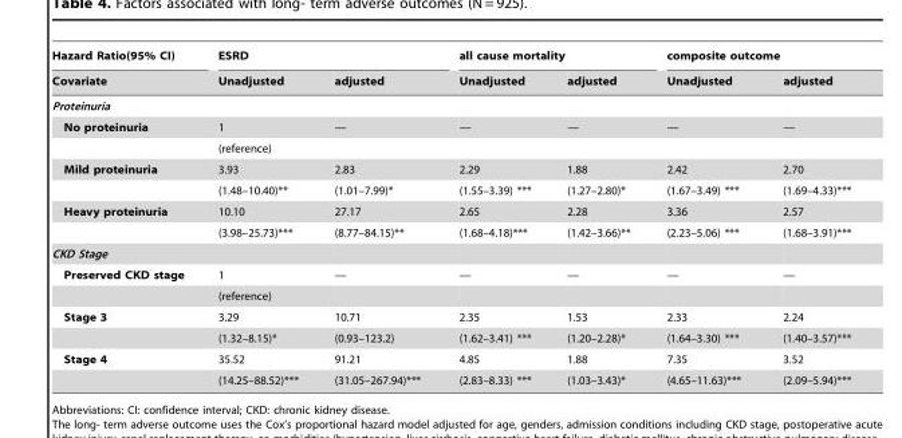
<table><thead><tr><td rowspan="2">Hazard Ratio(95% CI) Covariate</td><td colspan="2">ESRD</td><td colspan="2">all cause mortality</td><td colspan="2">composite outcome</td></tr><tr><td>Unadjusted</td><td>adjusted</td><td>Unadjusted</td><td>adjusted</td><td>Unadjusted</td><td>adjusted</td></tr></thead><tbody><tr><td colspan="7">Proteinuria</td></tr><tr><td rowspan="2">No proteinuria</td><td>1</td><td>—</td><td>—</td><td>—</td><td>—</td><td>—</td></tr><tr><td>(reference)</td><td></td><td></td><td></td><td></td><td></td></tr><tr><td rowspan="2">Mild proteinuria</td><td>3.93</td><td>2.83</td><td>2.29</td><td>1.88</td><td>2.42</td><td>2.70</td></tr><tr><td>(1.48–10.40)**</td><td>(1.01–7.99)*</td><td>(1.55–3.39) ***</td><td>(1.27–2.80)*</td><td>(1.67–3.49) ***</td><td>(1.69–4.33)***</td></tr><tr><td rowspan="2">Heavy proteinuria</td><td>10.10</td><td>27.17</td><td>2.65</td><td>2.28</td><td>3.36</td><td>2.57</td></tr><tr><td>(3.98–25.73)***</td><td>(8.77–84.15)**</td><td>(1.68–4.18)***</td><td>(1.42–3.66)**</td><td>(2.23–5.06) ***</td><td>(1.68–3.91)***</td></tr><tr><td colspan="7">CKD Stage</td></tr><tr><td rowspan="2">Preserved CKD stage</td><td>1</td><td>—</td><td>—</td><td>—</td><td>—</td><td>—</td></tr><tr><td>(reference)</td><td></td><td></td><td></td><td></td><td></td></tr><tr><td rowspan="2">Stage 3</td><td>3.29</td><td>10.71</td><td>2.35</td><td>1.53</td><td>2.33</td><td>2.24</td></tr><tr><td>(1.32–8.15)*</td><td>(0.93–123.2)</td><td>(1.62–3.41) ***</td><td>(1.20–2.28)*</td><td>(1.64–3.30) ***</td><td>(1.40–3.57)***</td></tr><tr><td rowspan="2">Stage 4</td><td>35.52</td><td>91.21</td><td>4.85</td><td>1.88</td><td>7.35</td><td>3.52</td></tr><tr><td>(14.25–88.52)***</td><td>(31.05–267.94)***</td><td>(2.83–8.33) ***</td><td>(1.03–3.43)*</td><td>(4.65–11.63)***</td><td>(2.09–5.94)***</td></tr></tbody></table>